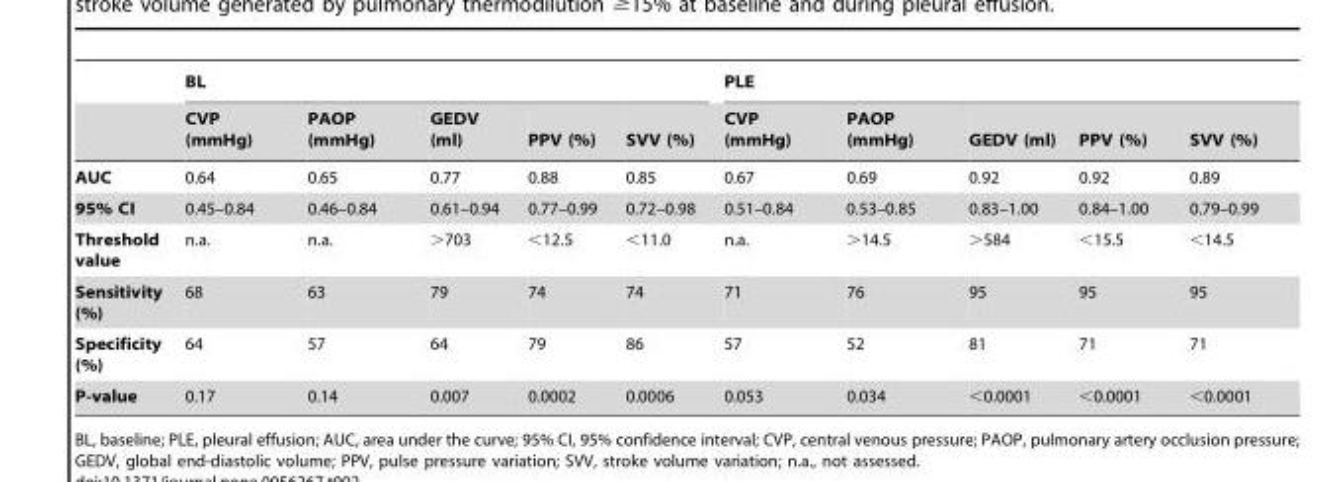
<table><thead><tr><td rowspan="2"></td><td colspan="5">BL</td><td colspan="5">PLE</td></tr><tr><td>CVP (mmHg)</td><td>PAOP (mmHg)</td><td>GEDV (ml)</td><td>PPV (%)</td><td>SVV (%)</td><td>CVP (mmHg)</td><td>PAOP (mmHg)</td><td>GEDV (ml)</td><td>PPV (%)</td><td>SVV (%)</td></tr></thead><tbody><tr><td>AUC</td><td>0.64</td><td>0.65</td><td>0.77</td><td>0.88</td><td>0.85</td><td>0.67</td><td>0.69</td><td>0.92</td><td>0.92</td><td>0.89</td></tr><tr><td>95% CI</td><td>0.45–0.84</td><td>0.46–0.84</td><td>0.61–0.94</td><td>0.77–0.99</td><td>0.72–0.98</td><td>0.51–0.84</td><td>0.53–0.85</td><td>0.83–1.00</td><td>0.84–1.00</td><td>0.79–0.99</td></tr><tr><td>Threshold value</td><td>n.a.</td><td>n.a.</td><td>&gt;703</td><td>&lt;12.5</td><td>&lt;11.0</td><td>n.a.</td><td>&gt;14.5</td><td>&gt;584</td><td>&lt;15.5</td><td>&lt;14.5</td></tr><tr><td>Sensitivity (%)</td><td>68</td><td>63</td><td>79</td><td>74</td><td>74</td><td>71</td><td>76</td><td>95</td><td>95</td><td>95</td></tr><tr><td>Specificity (%)</td><td>64</td><td>57</td><td>64</td><td>79</td><td>86</td><td>57</td><td>52</td><td>81</td><td>71</td><td>71</td></tr><tr><td>P-value</td><td>0.17</td><td>0.14</td><td>0.007</td><td>0.0002</td><td>0.0006</td><td>0.053</td><td>0.034</td><td>&lt;0.0001</td><td>&lt;0.0001</td><td>&lt;0.0001</td></tr></tbody></table>